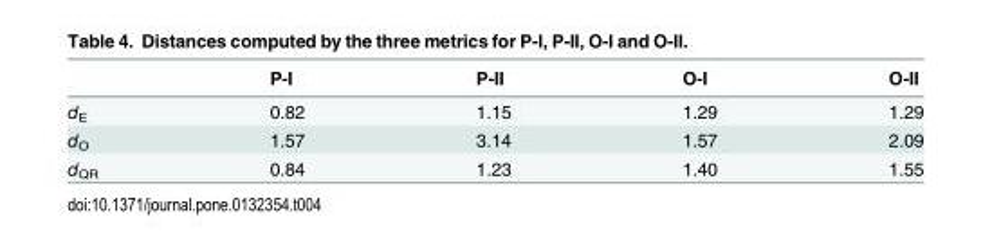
<table><thead><tr><td></td><td>P-I</td><td>P-II</td><td>O-I</td><td>O-II</td></tr></thead><tbody><tr><td>d<sub>E</sub></td><td>0.82</td><td>1.15</td><td>1.29</td><td>1.29</td></tr><tr><td>d<sub>O</sub></td><td>1.57</td><td>3.14</td><td>1.57</td><td>2.09</td></tr><tr><td>d<sub>QR</sub></td><td>0.84</td><td>1.23</td><td>1.40</td><td>1.55</td></tr></tbody></table>